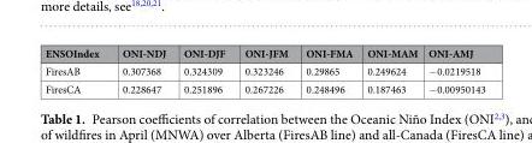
<table><thead><tr><td>ENSOIndex</td><td>ONI-NDJ</td><td>ONI-DJF</td><td>ONI-JFM</td><td>ONI-FMA</td><td>ONI-MAM</td><td>ONI-AMJ</td></tr></thead><tbody><tr><td>FiresAB</td><td>0.307368</td><td>0.324309</td><td>0.323246</td><td>0.29865</td><td>0.249624</td><td>−0.0219518</td></tr><tr><td>FiresCA</td><td>0.228647</td><td>0.251896</td><td>0.267226</td><td>0.248496</td><td>0.187463</td><td>−0.00950143</td></tr></tbody></table>